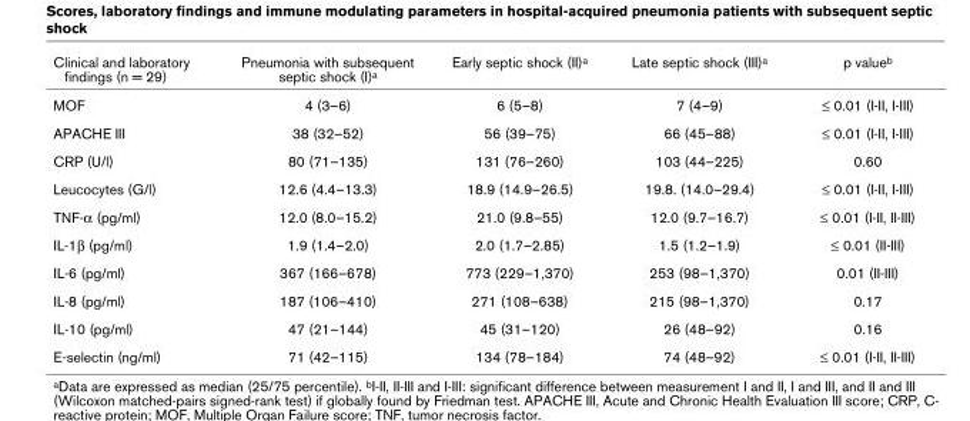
<table><thead><tr><td>Clinical and laboratory findings (n = 29)</td><td>Pneumonia with subsequent septic shock (I)a</td><td>Early septic shock (II)a</td><td>Late septic shock (III)a</td><td>p valueb</td></tr></thead><tbody><tr><td>MOF</td><td>4 (3–6)</td><td>6 (5–8)</td><td>7 (4–9)</td><td>≤ 0.01 (I-II, I-III)</td></tr><tr><td>APACHE III</td><td>38 (32–52)</td><td>56 (39–75)</td><td>66 (45–88)</td><td>≤ 0.01 (I-II, I-III)</td></tr><tr><td>CRP (U/l)</td><td>80 (71–135)</td><td>131 (76–260)</td><td>103 (44–225)</td><td>0.60</td></tr><tr><td>Leucocytes (G/l)</td><td>12.6 (4.4–13.3)</td><td>18.9 (14.9–26.5)</td><td>19.8. (14.0–29.4)</td><td>≤ 0.01 (I-II, I-III)</td></tr><tr><td>TNF-α (pg/ml)</td><td>12.0 (8.0–15.2)</td><td>21.0 (9.8–55)</td><td>12.0 (9.7–16.7)</td><td>≤ 0.01 (I-II, II-III)</td></tr><tr><td>IL-1β (pg/ml)</td><td>1.9 (1.4–2.0)</td><td>2.0 (1.7–2.85)</td><td>1.5 (1.2–1.9)</td><td>≤ 0.01 (II-III)</td></tr><tr><td>IL-6 (pg/ml)</td><td>367 (166–678)</td><td>773 (229–1,370)</td><td>253 (98–1,370)</td><td>0.01 (II-III)</td></tr><tr><td>IL-8 (pg/ml)</td><td>187 (106–410)</td><td>271 (108–638)</td><td>215 (98–1,370)</td><td>0.17</td></tr><tr><td>IL-10 (pg/ml)</td><td>47 (21–144)</td><td>45 (31–120)</td><td>26 (48–92)</td><td>0.16</td></tr><tr><td>E-selectin (ng/ml)</td><td>71 (42–115)</td><td>134 (78–184)</td><td>74 (48–92)</td><td>≤ 0.01 (I-II, II-III)</td></tr></tbody></table>